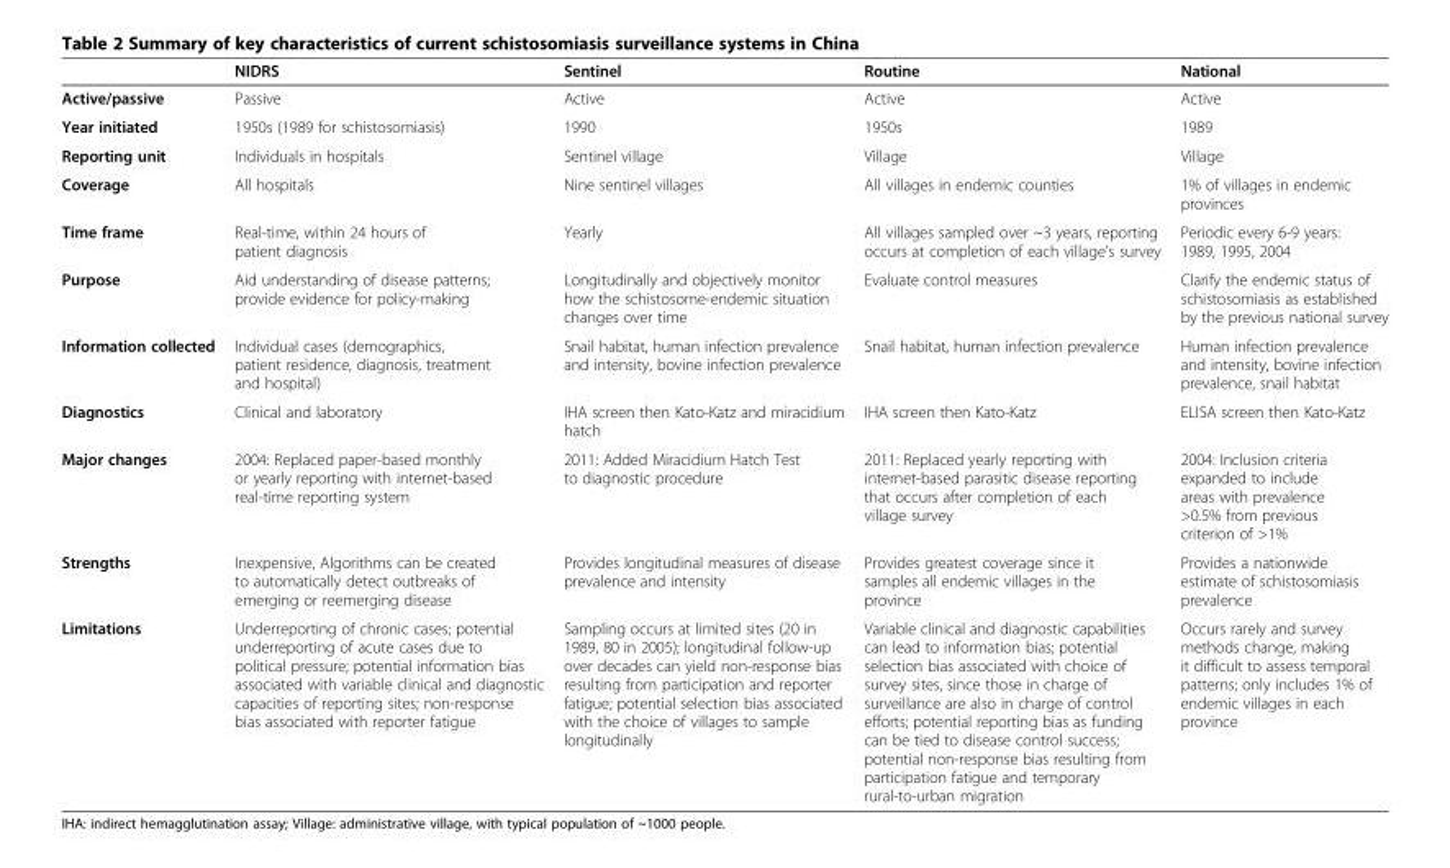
<table><thead><tr><td></td><td>NIDRS</td><td>Sentinel</td><td>Routine</td><td>National</td></tr></thead><tbody><tr><td>Active/passive</td><td>Passive</td><td>Active</td><td>Active</td><td>Active</td></tr><tr><td>Year initiated</td><td>1950s (1989 for schistosomiasis)</td><td>1990</td><td>1950s</td><td>1989</td></tr><tr><td>Reporting unit</td><td>Individuals in hospitals</td><td>Sentinel village</td><td>Village</td><td>Village</td></tr><tr><td>Coverage</td><td>All hospitals</td><td>Nine sentinel villages</td><td>All villages in endemic counties</td><td>1% of villages in endemic provinces</td></tr><tr><td>Time frame</td><td>Real-time, within 24 hours of patient diagnosis</td><td>Yearly</td><td>All villages sampled over ~3 years, reporting occurs at completion of each village’s survey</td><td>Periodic every 6-9 years: 1989, 1995, 2004</td></tr><tr><td>Purpose</td><td>Aid understanding of disease patterns; provide evidence for policy-making</td><td>Longitudinally and objectively monitor how the schistosome-endemic situation changes over time</td><td>Evaluate control measures</td><td>Clarify the endemic status of schistosomiasis as established by the previous national survey</td></tr><tr><td>Information collected</td><td>Individual cases (demographics, patient residence, diagnosis, treatment and hospital)</td><td>Snail habitat, human infection prevalence and intensity, bovine infection prevalence</td><td>Snail habitat, human infection prevalence</td><td>Human infection prevalence and intensity, bovine infection prevalence, snail habitat</td></tr><tr><td>Diagnostics</td><td>Clinical and laboratory</td><td>IHA screen then Kato-Katz and miracidium hatch</td><td>IHA screen then Kato-Katz</td><td>ELISA screen then Kato-Katz</td></tr><tr><td>Major changes</td><td>2004: Replaced paper-based monthly or yearly reporting with internet-based real-time reporting system</td><td>2011: Added Miracidium Hatch Test to diagnostic procedure</td><td>2011: Replaced yearly reporting with internet-based parasitic disease reporting that occurs after completion of each village survey</td><td>2004: Inclusion criteria expanded to include areas with prevalence &gt;0.5% from previous criterion of &gt;1%</td></tr><tr><td>Strengths</td><td>Inexpensive, Algorithms can be created to automatically detect outbreaks of emerging or reemerging disease</td><td>Provides longitudinal measures of disease prevalence and intensity</td><td>Provides greatest coverage since it samples all endemic villages in the province</td><td>Provides a nationwide estimate of schistosomiasis prevalence</td></tr><tr><td>Limitations</td><td>Underreporting of chronic cases; potential underreporting of acute cases due to political pressure; potential information bias associated with variable clinical and diagnostic capacities of reporting sites; non-response bias associated with reporter fatigue</td><td>Sampling occurs at limited sites (20 in 1989, 80 in 2005); longitudinal follow-up over decades can yield non-response bias resulting from participation and reporter fatigue; potential selection bias associated with the choice of villages to sample longitudinally</td><td>Variable clinical and diagnostic capabilities can lead to information bias; potential selection bias associated with choice of survey sites, since those in charge of surveillance are also in charge of control efforts; potential reporting bias as funding can be tied to disease control success; potential non-response bias resulting from participation fatigue and temporary rural-to-urban migration</td><td>Occurs rarely and survey methods change, making it difficult to assess temporal patterns; only includes 1% of endemic villages in each province</td></tr></tbody></table>